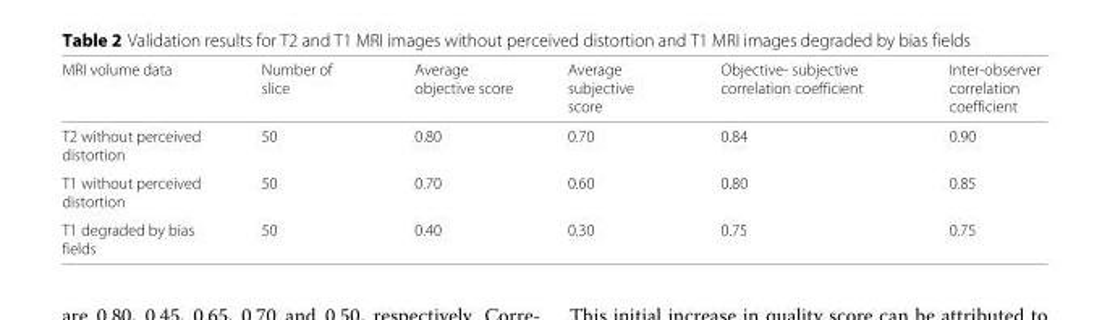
<table><thead><tr><td>MRI volume data</td><td>Number of slice</td><td>Average objective score</td><td>Average subjective score</td><td>Objective- subjective correlation coefficient</td><td>Inter-observer correlation coefficient</td></tr></thead><tbody><tr><td>T2 without perceived distortion</td><td>50</td><td>0.80</td><td>0.70</td><td>0.84</td><td>0.90</td></tr><tr><td>T1 without perceived distortion</td><td>50</td><td>0.70</td><td>0.60</td><td>0.80</td><td>0.85</td></tr><tr><td>T1 degraded by bias fields</td><td>50</td><td>0.40</td><td>0.30</td><td>0.75</td><td>0.75</td></tr></tbody></table>